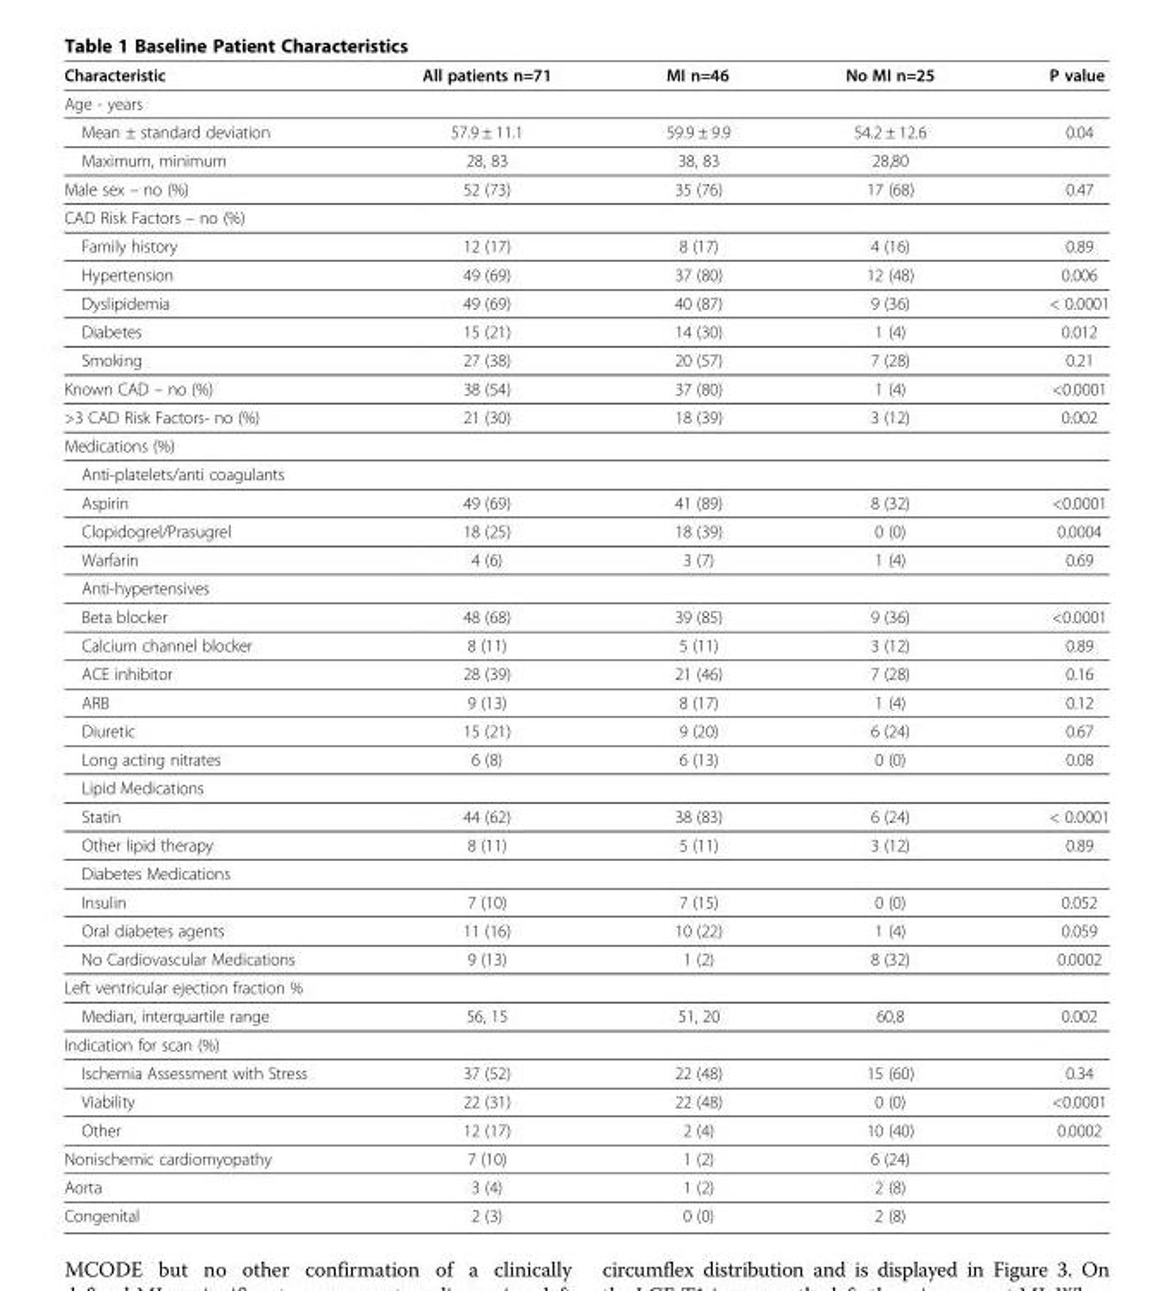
<table><thead><tr><td>Characteristic</td><td>All patients n=71</td><td>MI n=46</td><td>No MI n=25</td><td>P value</td></tr></thead><tbody><tr><td colspan="5">Age - years</td></tr><tr><td>Mean ± standard deviation</td><td>57.9 ± 11.1</td><td>59.9 ± 9.9</td><td>54.2 ± 12.6</td><td>0.04</td></tr><tr><td>Maximum, minimum</td><td>28, 83</td><td>38, 83</td><td>28,80</td><td></td></tr><tr><td>Male sex – no (%)</td><td>52 (73)</td><td>35 (76)</td><td>17 (68)</td><td>0.47</td></tr><tr><td colspan="5">CAD Risk Factors – no (%)</td></tr><tr><td>Family history</td><td>12 (17)</td><td>8 (17)</td><td>4 (16)</td><td>0.89</td></tr><tr><td>Hypertension</td><td>49 (69)</td><td>37 (80)</td><td>12 (48)</td><td>0.006</td></tr><tr><td>Dyslipidemia</td><td>49 (69)</td><td>40 (87)</td><td>9 (36)</td><td>&lt; 0.0001</td></tr><tr><td>Diabetes</td><td>15 (21)</td><td>14 (30)</td><td>1 (4)</td><td>0.012</td></tr><tr><td>Smoking</td><td>27 (38)</td><td>20 (57)</td><td>7 (28)</td><td>0.21</td></tr><tr><td>Known CAD – no (%)</td><td>38 (54)</td><td>37 (80)</td><td>1 (4)</td><td>&lt;0.0001</td></tr><tr><td>&gt;3 CAD Risk Factors- no (%)</td><td>21 (30)</td><td>18 (39)</td><td>3 (12)</td><td>0.002</td></tr><tr><td colspan="5">Medications (%)</td></tr><tr><td colspan="5">Anti-platelets/anti coagulants</td></tr><tr><td>Aspirin</td><td>49 (69)</td><td>41 (89)</td><td>8 (32)</td><td>&lt;0.0001</td></tr><tr><td>Clopidogrel/Prasugrel</td><td>18 (25)</td><td>18 (39)</td><td>0 (0)</td><td>0.0004</td></tr><tr><td>Warfarin</td><td>4 (6)</td><td>3 (7)</td><td>1 (4)</td><td>0.69</td></tr><tr><td colspan="5">Anti-hypertensives</td></tr><tr><td>Beta blocker</td><td>48 (68)</td><td>39 (85)</td><td>9 (36)</td><td>&lt;0.0001</td></tr><tr><td>Calcium channel blocker</td><td>8 (11)</td><td>5 (11)</td><td>3 (12)</td><td>0.89</td></tr><tr><td>ACE inhibitor</td><td>28 (39)</td><td>21 (46)</td><td>7 (28)</td><td>0.16</td></tr><tr><td>ARB</td><td>9 (13)</td><td>8 (17)</td><td>1 (4)</td><td>0.12</td></tr><tr><td>Diuretic</td><td>15 (21)</td><td>9 (20)</td><td>6 (24)</td><td>0.67</td></tr><tr><td>Long acting nitrates</td><td>6 (8)</td><td>6 (13)</td><td>0 (0)</td><td>0.08</td></tr><tr><td colspan="5">Lipid Medications</td></tr><tr><td>Statin</td><td>44 (62)</td><td>38 (83)</td><td>6 (24)</td><td>&lt; 0.0001</td></tr><tr><td>Other lipid therapy</td><td>8 (11)</td><td>5 (11)</td><td>3 (12)</td><td>0.89</td></tr><tr><td colspan="5">Diabetes Medications</td></tr><tr><td>Insulin</td><td>7 (10)</td><td>7 (15)</td><td>0 (0)</td><td>0.052</td></tr><tr><td>Oral diabetes agents</td><td>11 (16)</td><td>10 (22)</td><td>1 (4)</td><td>0.059</td></tr><tr><td>No Cardiovascular Medications</td><td>9 (13)</td><td>1 (2)</td><td>8 (32)</td><td>0.0002</td></tr><tr><td colspan="5">Left ventricular ejection fraction %</td></tr><tr><td>Median, interquartile range</td><td>56, 15</td><td>51, 20</td><td>60,8</td><td>0.002</td></tr><tr><td colspan="5">Indication for scan (%)</td></tr><tr><td>Ischemia Assessment with Stress</td><td>37 (52)</td><td>22 (48)</td><td>15 (60)</td><td>0.34</td></tr><tr><td>Viability</td><td>22 (31)</td><td>22 (48)</td><td>0 (0)</td><td>&lt;0.0001</td></tr><tr><td>Other</td><td>12 (17)</td><td>2 (4)</td><td>10 (40)</td><td>0.0002</td></tr><tr><td>Nonischemic cardiomyopathy</td><td>7 (10)</td><td>1 (2)</td><td>6 (24)</td><td></td></tr><tr><td>Aorta</td><td>3 (4)</td><td>1 (2)</td><td>2 (8)</td><td></td></tr><tr><td>Congenital</td><td>2 (3)</td><td>0 (0)</td><td>2 (8)</td><td></td></tr></tbody></table>